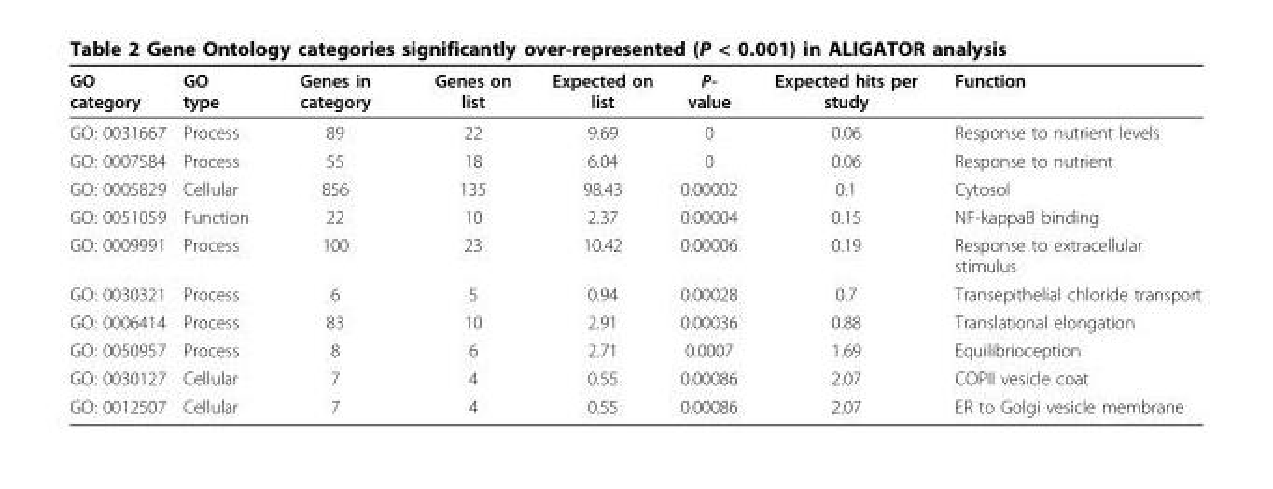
<table><thead><tr><td>GO category</td><td>GO type</td><td>Genes in category</td><td>Genes on list</td><td>Expected on list</td><td>P- value</td><td>Expected hits per study</td><td>Function</td></tr></thead><tbody><tr><td>GO: 0031667</td><td>Process</td><td>89</td><td>22</td><td>9.69</td><td>0</td><td>0.06</td><td>Response to nutrient levels</td></tr><tr><td>GO: 0007584</td><td>Process</td><td>55</td><td>18</td><td>6.04</td><td>0</td><td>0.06</td><td>Response to nutrient</td></tr><tr><td>GO: 0005829</td><td>Cellular</td><td>856</td><td>135</td><td>98.43</td><td>0.00002</td><td>0.1</td><td>Cytosol</td></tr><tr><td>GO: 0051059</td><td>Function</td><td>22</td><td>10</td><td>2.37</td><td>0.00004</td><td>0.15</td><td>NF-kappaB binding</td></tr><tr><td>GO: 0009991</td><td>Process</td><td>100</td><td>23</td><td>10.42</td><td>0.00006</td><td>0.19</td><td>Response to extracellular stimulus</td></tr><tr><td>GO: 0030321</td><td>Process</td><td>6</td><td>5</td><td>0.94</td><td>0.00028</td><td>0.7</td><td>Transepithelial chloride transport</td></tr><tr><td>GO: 0006414</td><td>Process</td><td>83</td><td>10</td><td>2.91</td><td>0.00036</td><td>0.88</td><td>Translational elongation</td></tr><tr><td>GO: 0050957</td><td>Process</td><td>8</td><td>6</td><td>2.71</td><td>0.0007</td><td>1.69</td><td>Equilibrioception</td></tr><tr><td>GO: 0030127</td><td>Cellular</td><td>7</td><td>4</td><td>0.55</td><td>0.00086</td><td>2.07</td><td>COPII vesicle coat</td></tr><tr><td>GO: 0012507</td><td>Cellular</td><td>7</td><td>4</td><td>0.55</td><td>0.00086</td><td>2.07</td><td>ER to Golgi vesicle membrane</td></tr></tbody></table>